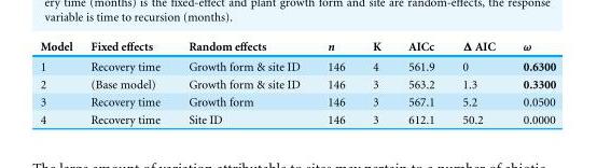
<table><thead><tr><td>Model</td><td>Fixed effects</td><td>Random effects</td><td>n</td><td>K</td><td>AICc</td><td>Δ AIC</td><td>ω</td></tr></thead><tbody><tr><td>1</td><td>Recovery time</td><td>Growth form &amp; site ID</td><td>146</td><td>4</td><td>561.9</td><td>0</td><td>0.6300</td></tr><tr><td>2</td><td>(Base model)</td><td>Growth form &amp; site ID</td><td>146</td><td>3</td><td>563.2</td><td>1.3</td><td>0.3300</td></tr><tr><td>3</td><td>Recovery time</td><td>Growth form</td><td>146</td><td>3</td><td>567.1</td><td>5.2</td><td>0.0500</td></tr><tr><td>4</td><td>Recovery time</td><td>Site ID</td><td>146</td><td>3</td><td>612.1</td><td>50.2</td><td>0.0000</td></tr></tbody></table>